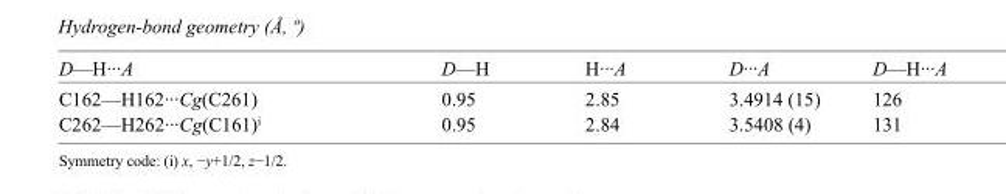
<table><tbody><tr><td>D—H···A</td><td>D—H</td><td>H···A</td><td>D···A</td><td>D—H···A</td></tr><tr><td>C162—H162···Cg(C261)</td><td>0.95</td><td>2.85</td><td>3.4914 (15)</td><td>126</td></tr><tr><td>C262—H262···Cg(C161)<sup>i</sup></td><td>0.95</td><td>2.84</td><td>3.5408 (4)</td><td>131</td></tr></tbody></table>